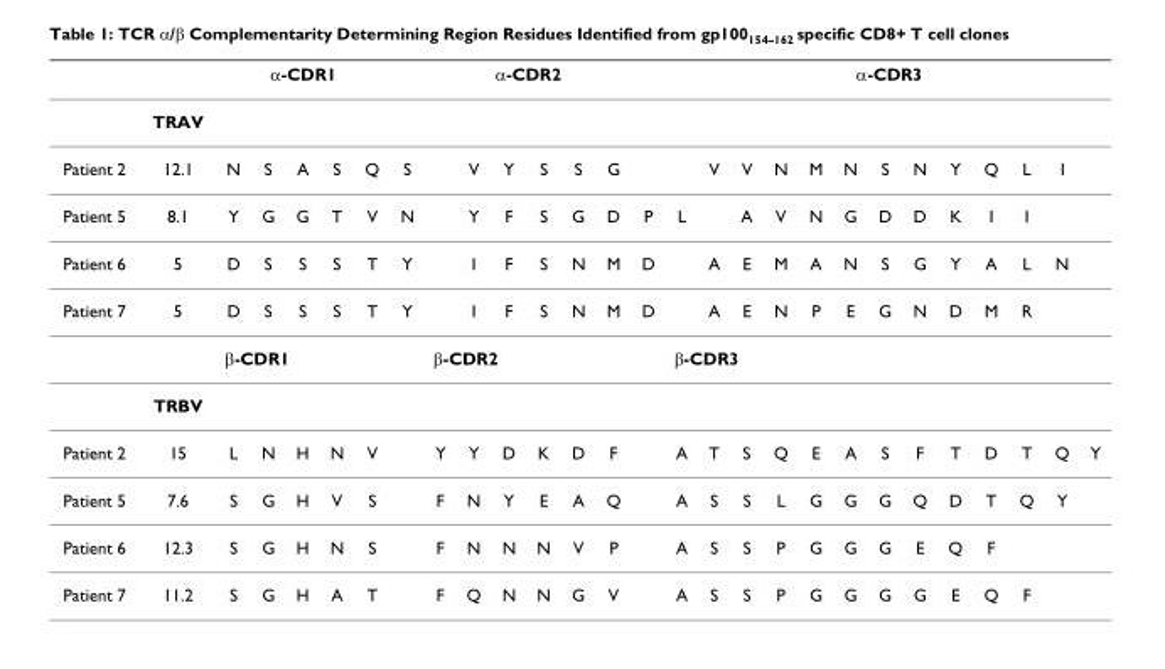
<table><thead><tr><td rowspan="2"></td><td rowspan="2">TRAV</td><td colspan="5">α-CDR1</td><td rowspan="2"></td><td colspan="6">α-CDR2</td><td rowspan="2"></td><td rowspan="2"></td><td colspan="11">α-CDR3</td><td rowspan="2"></td></tr><tr><td></td><td></td><td></td><td></td><td></td><td></td><td></td><td></td><td></td><td></td><td></td><td></td><td></td><td></td><td></td><td></td><td></td><td></td><td></td><td></td><td></td><td></td></tr></thead><tbody><tr><td>Patient 2</td><td>12.1</td><td>N</td><td>S</td><td>A</td><td>S</td><td>Q</td><td>S</td><td></td><td>V</td><td>Y</td><td>S</td><td>S</td><td>G</td><td></td><td></td><td>V</td><td>V</td><td>N</td><td>M</td><td>N</td><td>S</td><td>N</td><td>Y</td><td>Q</td><td>L</td><td>I</td><td></td></tr><tr><td>Patient 5</td><td>8.1</td><td>Y</td><td>G</td><td>G</td><td>T</td><td>V</td><td>N</td><td></td><td>Y</td><td>F</td><td>S</td><td>G</td><td>D</td><td>P</td><td>L</td><td></td><td>A</td><td>V</td><td>N</td><td>G</td><td>D</td><td>D</td><td>K</td><td>I</td><td>I</td><td></td><td></td></tr><tr><td>Patient 6</td><td>5</td><td>D</td><td>S</td><td>S</td><td>S</td><td>T</td><td>Y</td><td></td><td>I</td><td>F</td><td>S</td><td>N</td><td>M</td><td>D</td><td></td><td>A</td><td>E</td><td>M</td><td>A</td><td>N</td><td>S</td><td>G</td><td>Y</td><td>A</td><td>L</td><td>N</td><td></td></tr><tr><td rowspan="3">Patient 7</td><td>5</td><td>D</td><td>S</td><td>S</td><td>S</td><td>T</td><td>Y</td><td></td><td>I</td><td>F</td><td>S</td><td>N</td><td>M</td><td>D</td><td></td><td>A</td><td>E</td><td>N</td><td>P</td><td>E</td><td>G</td><td>N</td><td>D</td><td>M</td><td>R</td><td></td><td></td></tr><tr><td></td><td colspan="5">β-CDR1</td><td></td><td colspan="6">β-CDR2</td><td></td><td colspan="10">β-CDR3</td><td></td><td></td><td></td></tr><tr><td>TRBV</td><td></td><td></td><td></td><td></td><td></td><td></td><td></td><td></td><td></td><td></td><td></td><td></td><td></td><td></td><td></td><td></td><td></td><td></td><td></td><td></td><td></td><td></td><td></td><td></td><td></td><td></td></tr><tr><td>Patient 2</td><td>15</td><td>L</td><td>N</td><td>H</td><td>N</td><td>V</td><td></td><td>Y</td><td>Y</td><td>D</td><td>K</td><td>D</td><td>F</td><td></td><td>A</td><td>T</td><td>S</td><td>Q</td><td>E</td><td>A</td><td>S</td><td>F</td><td>T</td><td>D</td><td>T</td><td>Q</td><td>Y</td></tr><tr><td>Patient 5</td><td>7.6</td><td>S</td><td>G</td><td>H</td><td>V</td><td>S</td><td></td><td>F</td><td>N</td><td>Y</td><td>E</td><td>A</td><td>Q</td><td></td><td>A</td><td>S</td><td>S</td><td>L</td><td>G</td><td>G</td><td>G</td><td>Q</td><td>D</td><td>T</td><td>Q</td><td>Y</td><td></td></tr><tr><td>Patient 6</td><td>12.3</td><td>S</td><td>G</td><td>H</td><td>N</td><td>S</td><td></td><td>F</td><td>N</td><td>N</td><td>N</td><td>V</td><td>P</td><td></td><td>A</td><td>S</td><td>S</td><td>P</td><td>G</td><td>G</td><td>G</td><td>E</td><td>Q</td><td>F</td><td></td><td></td><td></td></tr><tr><td>Patient 7</td><td>11.2</td><td>S</td><td>G</td><td>H</td><td>A</td><td>T</td><td></td><td>F</td><td>Q</td><td>N</td><td>N</td><td>G</td><td>V</td><td></td><td>A</td><td>S</td><td>S</td><td>P</td><td>G</td><td>G</td><td>G</td><td>G</td><td>E</td><td>Q</td><td>F</td><td></td><td></td></tr></tbody></table>